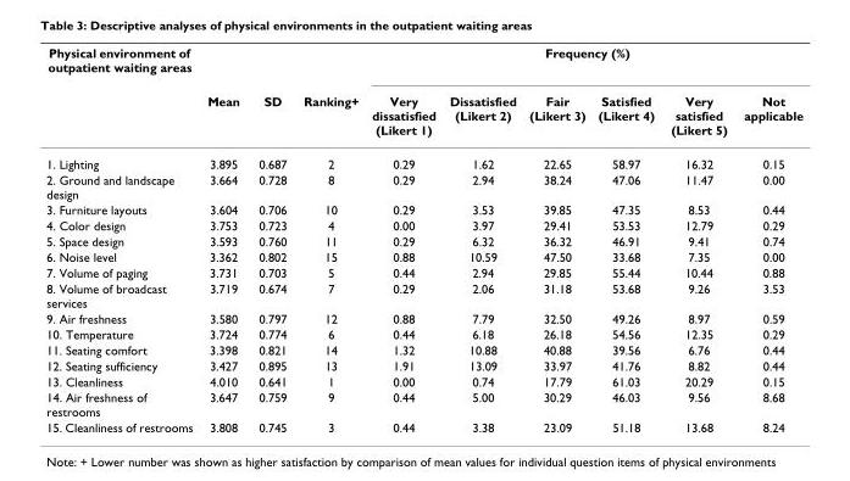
<table><thead><tr><td rowspan="2">Physical environment of outpatient waiting areas</td><td rowspan="2">Mean</td><td rowspan="2">SD</td><td rowspan="2">Ranking+</td><td colspan="6">Frequency (%)</td></tr><tr><td>Very dissatisfied (Likert 1)</td><td>Dissatisfied (Likert 2)</td><td>Fair (Likert 3)</td><td>Satisfied (Likert 4)</td><td>Very satisfied (Likert 5)</td><td>Not applicable</td></tr></thead><tbody><tr><td>1. Lighting</td><td>3.895</td><td>0.687</td><td>2</td><td>0.29</td><td>1.62</td><td>22.65</td><td>58.97</td><td>16.32</td><td>0.15</td></tr><tr><td>2. Ground and landscape design</td><td>3.664</td><td>0.728</td><td>8</td><td>0.29</td><td>2.94</td><td>38.24</td><td>47.06</td><td>11.47</td><td>0.00</td></tr><tr><td>3. Furniture layouts</td><td>3.604</td><td>0.706</td><td>10</td><td>0.29</td><td>3.53</td><td>39.85</td><td>47.35</td><td>8.53</td><td>0.44</td></tr><tr><td>4. Color design</td><td>3.753</td><td>0.723</td><td>4</td><td>0.00</td><td>3.97</td><td>29.41</td><td>53.53</td><td>12.79</td><td>0.29</td></tr><tr><td>5. Space design</td><td>3.593</td><td>0.760</td><td>11</td><td>0.29</td><td>6.32</td><td>36.32</td><td>46.91</td><td>9.41</td><td>0.74</td></tr><tr><td>6. Noise level</td><td>3.362</td><td>0.802</td><td>15</td><td>0.88</td><td>10.59</td><td>47.50</td><td>33.68</td><td>7.35</td><td>0.00</td></tr><tr><td>7. Volume of paging</td><td>3.731</td><td>0.703</td><td>5</td><td>0.44</td><td>2.94</td><td>29.85</td><td>55.44</td><td>10.44</td><td>0.88</td></tr><tr><td>8. Volume of broadcast services</td><td>3.719</td><td>0.674</td><td>7</td><td>0.29</td><td>2.06</td><td>31.18</td><td>53.68</td><td>9.26</td><td>3.53</td></tr><tr><td>9. Air freshness</td><td>3.580</td><td>0.797</td><td>12</td><td>0.88</td><td>7.79</td><td>32.50</td><td>49.26</td><td>8.97</td><td>0.59</td></tr><tr><td>10. Temperature</td><td>3.724</td><td>0.774</td><td>6</td><td>0.44</td><td>6.18</td><td>26.18</td><td>54.56</td><td>12.35</td><td>0.29</td></tr><tr><td>11. Seating comfort</td><td>3.398</td><td>0.821</td><td>14</td><td>1.32</td><td>10.88</td><td>40.88</td><td>39.56</td><td>6.76</td><td>0.44</td></tr><tr><td>12. Seating sufficiency</td><td>3.427</td><td>0.895</td><td>13</td><td>1.91</td><td>13.09</td><td>33.97</td><td>41.76</td><td>8.82</td><td>0.44</td></tr><tr><td>13. Cleanliness</td><td>4.010</td><td>0.641</td><td>1</td><td>0.00</td><td>0.74</td><td>17.79</td><td>61.03</td><td>20.29</td><td>0.15</td></tr><tr><td>14. Air freshness of restrooms</td><td>3.647</td><td>0.759</td><td>9</td><td>0.44</td><td>5.00</td><td>30.29</td><td>46.03</td><td>9.56</td><td>8.68</td></tr><tr><td>15. Cleanliness of restrooms</td><td>3.808</td><td>0.745</td><td>3</td><td>0.44</td><td>3.38</td><td>23.09</td><td>51.18</td><td>13.68</td><td>8.24</td></tr></tbody></table>